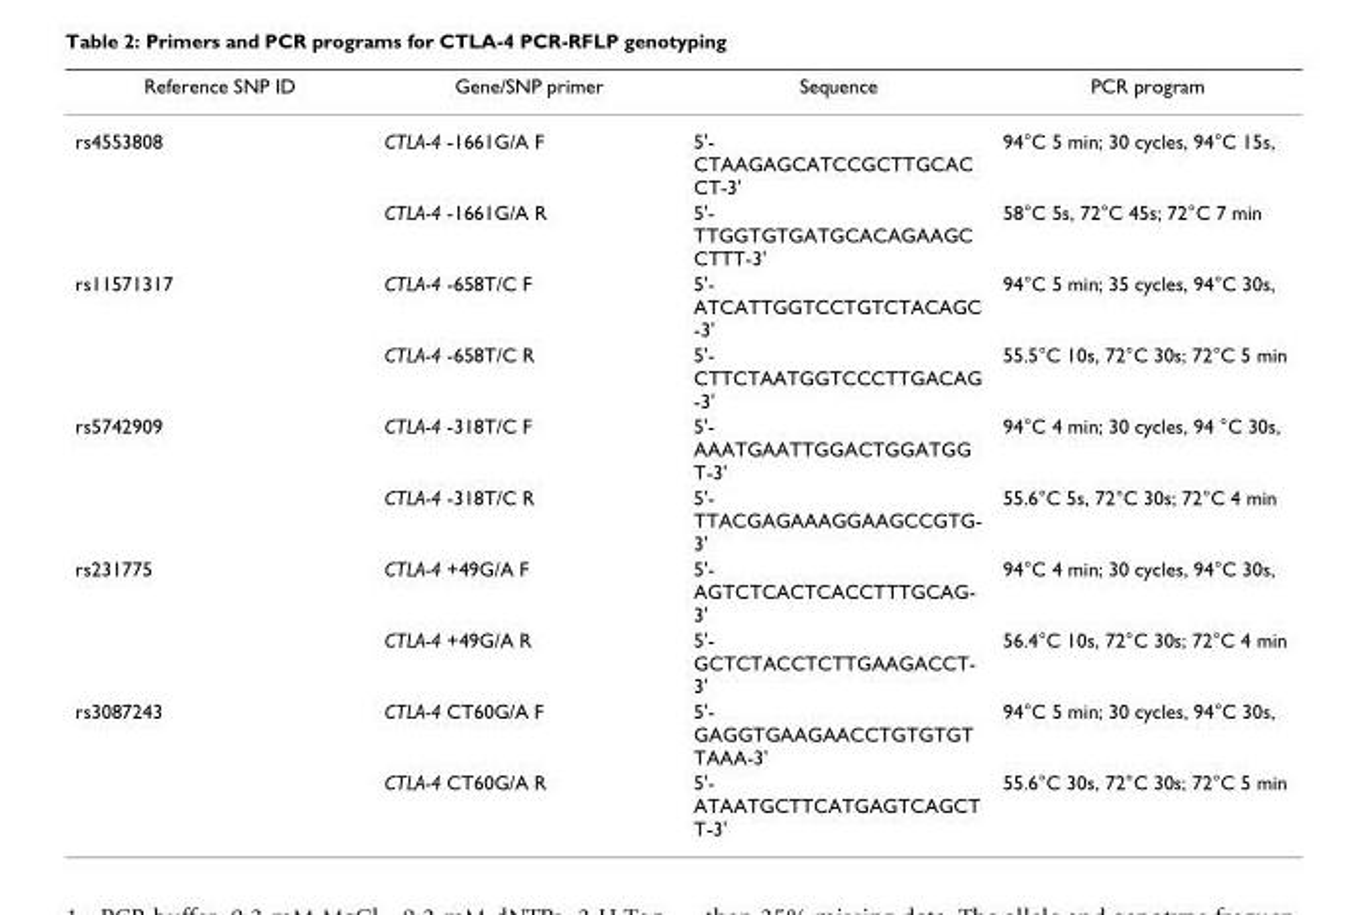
<table><thead><tr><td>Reference SNP ID</td><td>Gene/SNP primer</td><td>Sequence</td><td>PCR program</td></tr></thead><tbody><tr><td rowspan="2">rs4553808</td><td>CTLA-4 -1661G/A F</td><td>5&#x27;- CTAAGAGCATCCGCTTGCAC CT-3&#x27;</td><td>94°C 5 min; 30 cycles, 94°C 15s,</td></tr><tr><td>CTLA-4 -1661G/A R</td><td>5&#x27;- TTGGTGTGATGCACAGAAGC CTTT-3&#x27;</td><td>58°C 5s, 72°C 45s; 72°C 7 min</td></tr><tr><td rowspan="2">rs11571317</td><td>CTLA-4 -658T/C F</td><td>5&#x27;- ATCATTGGTCCTGTCTACAGC -3&#x27;</td><td>94°C 5 min; 35 cycles, 94°C 30s,</td></tr><tr><td>CTLA-4 -658T/C R</td><td>5&#x27;- CTTCTAATGGTCCCTTGACAG -3&#x27;</td><td>55.5°C 10s, 72°C 30s; 72°C 5 min</td></tr><tr><td rowspan="2">rs5742909</td><td>CTLA-4 -318T/C F</td><td>5&#x27;- AAATGAATTGGACTGGATGG T-3&#x27;</td><td>94°C 4 min; 30 cycles, 94 °C 30s,</td></tr><tr><td>CTLA-4 -318T/C R</td><td>5&#x27;- TTACGAGAAAGGAAGCCGTG- 3&#x27;</td><td>55.6°C 5s, 72°C 30s; 72°C 4 min</td></tr><tr><td rowspan="2">rs231775</td><td>CTLA-4 +49G/A F</td><td>5&#x27;- AGTCTCACTCACCTTTGCAG- 3&#x27;</td><td>94°C 4 min; 30 cycles, 94°C 30s,</td></tr><tr><td>CTLA-4 +49G/A R</td><td>5&#x27;- GCTCTACCTCTTGAAGACCT- 3&#x27;</td><td>56.4°C 10s, 72°C 30s; 72°C 4 min</td></tr><tr><td rowspan="2">rs3087243</td><td>CTLA-4 CT60G/A F</td><td>5&#x27;- GAGGTGAAGAACCTGTGTGT TAAA-3&#x27;</td><td>94°C 5 min; 30 cycles, 94°C 30s,</td></tr><tr><td>CTLA-4 CT60G/A R</td><td>5&#x27;- ATAATGCTTCATGAGTCAGCT T-3&#x27;</td><td>55.6°C 30s, 72°C 30s; 72°C 5 min</td></tr></tbody></table>